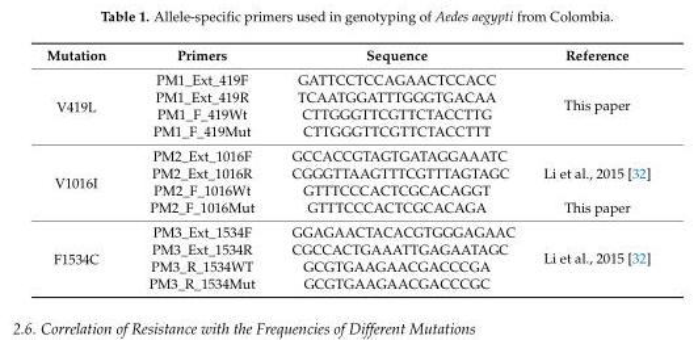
<table><thead><tr><td>Mutation</td><td>Primers</td><td>Sequence</td><td>Reference</td></tr></thead><tbody><tr><td rowspan="4">V419L</td><td>PM1_Ext_419F</td><td>GATTCCTCCAGAACTCCACC</td><td rowspan="4">This paper</td></tr><tr><td>PM1_Ext_419R</td><td>TCAATGGATTTGGGTGACAA</td></tr><tr><td>PM1_F_419Wt</td><td>CTTGGGTTCGTTCTACCTTG</td></tr><tr><td>PM1_F_419Mut</td><td>CTTGGGTTCGTTCTACCTTT</td></tr><tr><td rowspan="4">V1016I</td><td>PM2_Ext_1016F</td><td>GCCACCGTAGTGATAGGAAATC</td><td rowspan="3">Li et al., 2015 [32]</td></tr><tr><td>PM2_Ext_1016R</td><td>CGGGTTAAGTTTCGTTTAGTAGC</td></tr><tr><td>PM2_F_1016Wt</td><td>GTTTCCCACTCGCACAGGT</td></tr><tr><td>PM2_F_1016Mut</td><td>GTTTCCCACTCGCACAGA</td><td>This paper</td></tr><tr><td rowspan="4">F1534C</td><td>PM3_Ext_1534F</td><td>GGAGAACTACACGTGGGAGAAC</td><td rowspan="4">Li et al., 2015 [32]</td></tr><tr><td>PM3_Ext_1534R</td><td>CGCCACTGAAATTGAGAATAGC</td></tr><tr><td>PM3_R_1534WT</td><td>GCGTGAAGAACGACCCGA</td></tr><tr><td>PM3_R_1534Mut</td><td>GCGTGAAGAACGACCCGC</td></tr></tbody></table>